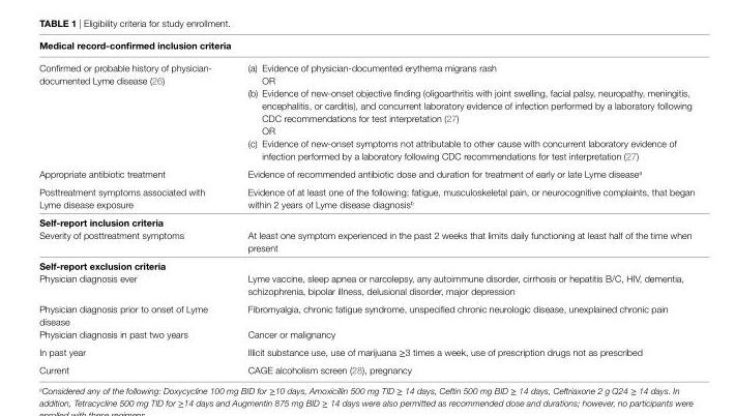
<table><thead><tr><td colspan="2">Medical record-confirmed inclusion criteria</td></tr><tr><td>Confirmed or probable history of physician- documented Lyme disease (26)</td><td>(a) Evidence of physician-documented erythema migrans rash OR (b) Evidence of new-onset objective finding (oligoarthritis with joint swelling, facial palsy, neuropathy, meningitis, encephalitis, or carditis), and concurrent laboratory evidence of infection performed by a laboratory following CDC recommendations for test interpretation (27) OR (c) Evidence of new-onset symptoms not attributable to other cause with concurrent laboratory evidence of infection performed by a laboratory following CDC recommendations for test interpretation (27)</td></tr></thead><tbody><tr><td>Appropriate antibiotic treatment</td><td>Evidence of recommended antibiotic dose and duration for treatment of early or late Lyme disease<sup>a</sup></td></tr><tr><td>Posttreatment symptoms associated with Lyme disease exposure</td><td>Evidence of at least one of the following; fatigue, musculoskeletal pain, or neurocognitive complaints, that began within 2 years of Lyme disease diagnosis<sup>b</sup></td></tr><tr><td colspan="2">self-report inclusion criteria</td></tr><tr><td>Severity of posttreatment symptoms</td><td>At least one symptom experienced in the past 2 weeks that limits daily functioning at least half of the time when present</td></tr><tr><td colspan="2">self-report exclusion criteria</td></tr><tr><td>Physician diagnosis ever</td><td>Lyme vaccine, sleep apnea or narcolepsy, any autoimmune disorder, cirrhosis or hepatitis B/C, HIV, dementia, schizophrenia, bipolar illness, delusional disorder, major depression</td></tr><tr><td>Physician diagnosis prior to onset of Lyme disease</td><td>Fibromyalgia, chronic fatigue syndrome, unspecified chronic neurologic disease, unexplained chronic pain</td></tr><tr><td>Physician diagnosis in past two years</td><td>Cancer or malignancy</td></tr><tr><td>In past year</td><td>Illicit substance use, use of marijuana ≥3 times a week, use of prescription drugs not as prescribed</td></tr><tr><td>Current</td><td>CAGE alcoholism screen (28), pregnancy</td></tr></tbody></table>